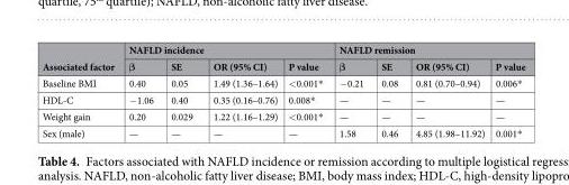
<table><thead><tr><td rowspan="2">Associated factor</td><td colspan="4">NAFLD incidence</td><td colspan="4">NAFLD remission</td></tr><tr><td>β</td><td>SE</td><td>OR (95% CI)</td><td>P value</td><td>β</td><td>SE</td><td>OR (95% CI)</td><td>P value</td></tr></thead><tbody><tr><td>Baseline BMI</td><td>0.40</td><td>0.05</td><td>1.49 (1.36–1.64)</td><td>&lt;0.001*</td><td>−0.21</td><td>0.08</td><td>0.81 (0.70–0.94)</td><td>0.006*</td></tr><tr><td>HDL-C</td><td>−1.06</td><td>0.40</td><td>0.35 (0.16–0.76)</td><td>0.008*</td><td>—</td><td>—</td><td>—</td><td>—</td></tr><tr><td>Weight gain</td><td>0.20</td><td>0.029</td><td>1.22 (1.16–1.29)</td><td>&lt;0.001*</td><td>—</td><td>—</td><td>—</td><td>—</td></tr><tr><td>Sex (male)</td><td>—</td><td>—</td><td>—</td><td>—</td><td>1.58</td><td>0.46</td><td>4.85 (1.98–11.92)</td><td>0.001*</td></tr></tbody></table>